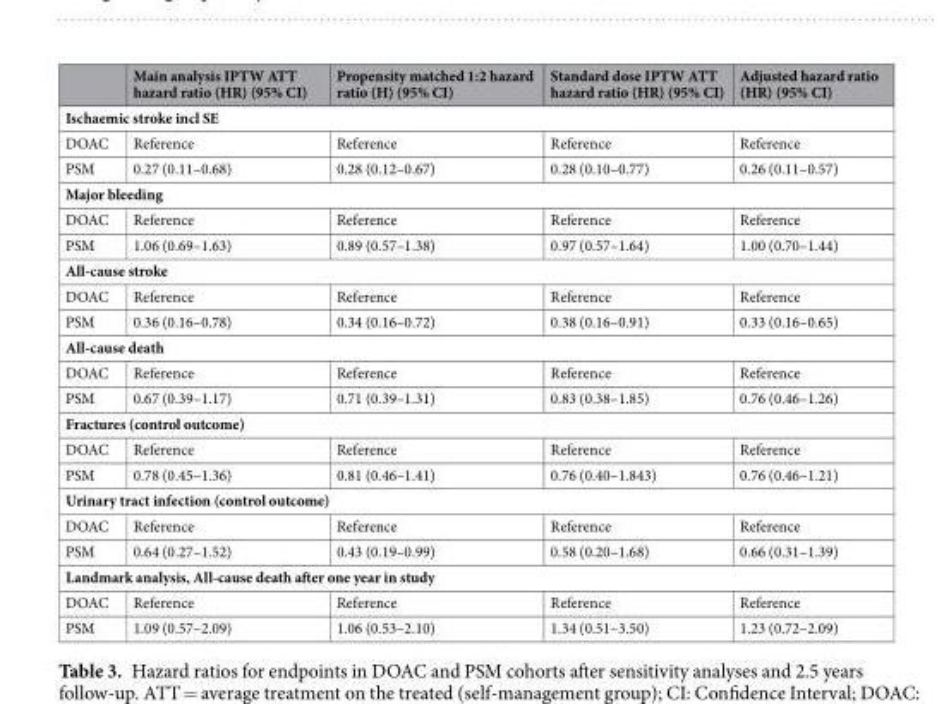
<table><thead><tr><td></td><td>Main analysis IPTW ATT hazard ratio (HR) (95% CI)</td><td>Propensity matched 1:2 hazard ratio (H) (95% CI)</td><td>Standard dose IPTW ATT hazard ratio (HR) (95% CI)</td><td>Adjusted hazard ratio (HR) (95% CI)</td></tr></thead><tbody><tr><td colspan="5">Ischaemic stroke incl SE</td></tr><tr><td>DOAC</td><td>Reference</td><td>Reference</td><td>Reference</td><td>Reference</td></tr><tr><td>PSM</td><td>0.27 (0.11–0.68)</td><td>0.28 (0.12–0.67)</td><td>0.28 (0.10–0.77)</td><td>0.26 (0.11–0.57)</td></tr><tr><td colspan="5">Major bleeding</td></tr><tr><td>DOAC</td><td>Reference</td><td>Reference</td><td>Reference</td><td>Reference</td></tr><tr><td>PSM</td><td>1.06 (0.69–1.63)</td><td>0.89 (0.57–1.38)</td><td>0.97 (0.57–1.64)</td><td>1.00 (0.70–1.44)</td></tr><tr><td colspan="5">All-cause stroke</td></tr><tr><td>DOAC</td><td>Reference</td><td>Reference</td><td>Reference</td><td>Reference</td></tr><tr><td>PSM</td><td>0.36 (0.16–0.78)</td><td>0.34 (0.16–0.72)</td><td>0.38 (0.16–0.91)</td><td>0.33 (0.16–0.65)</td></tr><tr><td colspan="5">All-cause death</td></tr><tr><td>DOAC</td><td>Reference</td><td>Reference</td><td>Reference</td><td>Reference</td></tr><tr><td>PSM</td><td>0.67 (0.39–1.17)</td><td>0.71 (0.39–1.31)</td><td>0.83 (0.38–1.85)</td><td>0.76 (0.46–1.26)</td></tr><tr><td colspan="5">Fractures (control outcome)</td></tr><tr><td>DOAC</td><td>Reference</td><td>Reference</td><td>Reference</td><td>Reference</td></tr><tr><td>PSM</td><td>0.78 (0.45–1.36)</td><td>0.81 (0.46–1.41)</td><td>0.76 (0.40–1.843)</td><td>0.76 (0.46–1.21)</td></tr><tr><td colspan="5">Urinary tract infection (control outcome)</td></tr><tr><td>DOAC</td><td>Reference</td><td>Reference</td><td>Reference</td><td>Reference</td></tr><tr><td>PSM</td><td>0.64 (0.27–1.52)</td><td>0.43 (0.19–0.99)</td><td>0.58 (0.20–1.68)</td><td>0.66 (0.31–1.39)</td></tr><tr><td colspan="5">Landmark analysis, All-cause death after one year in study</td></tr><tr><td>DOAC</td><td>Reference</td><td>Reference</td><td>Reference</td><td>Reference</td></tr><tr><td>PSM</td><td>1.09 (0.57–2.09)</td><td>1.06 (0.53–2.10)</td><td>1.34 (0.51–3.50)</td><td>1.23 (0.72–2.09)</td></tr></tbody></table>